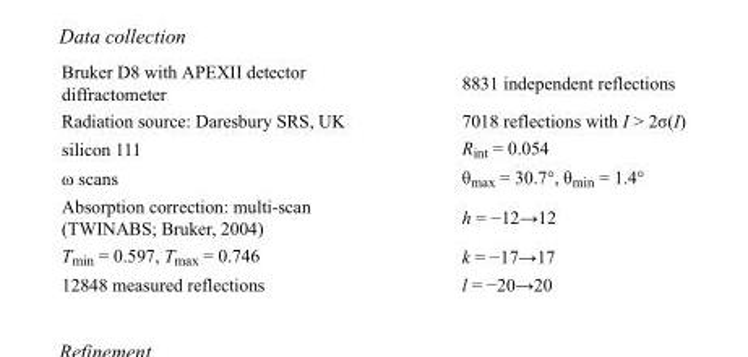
<table><tbody><tr><td>Bruker D8 with APEXII detector diffractometer</td><td>8831 independent reflections</td></tr><tr><td>Radiation source: Daresbury SRS, UK</td><td>7018 reflections with I &gt; 2σ(I)</td></tr><tr><td>silicon 111</td><td>R<sub>int</sub> = 0.054</td></tr><tr><td>ω scans</td><td>θ<sub>max</sub> = 30.7°, θ<sub>min</sub> = 1.4°</td></tr><tr><td>Absorption correction: multi-scan (TWINABS; Bruker, 2004)</td><td>h = −12→12</td></tr><tr><td>T<sub>min</sub> = 0.597, T<sub>max</sub> = 0.746</td><td>k = −17→17</td></tr><tr><td>12848 measured reflections</td><td>l = −20→20</td></tr></tbody></table>